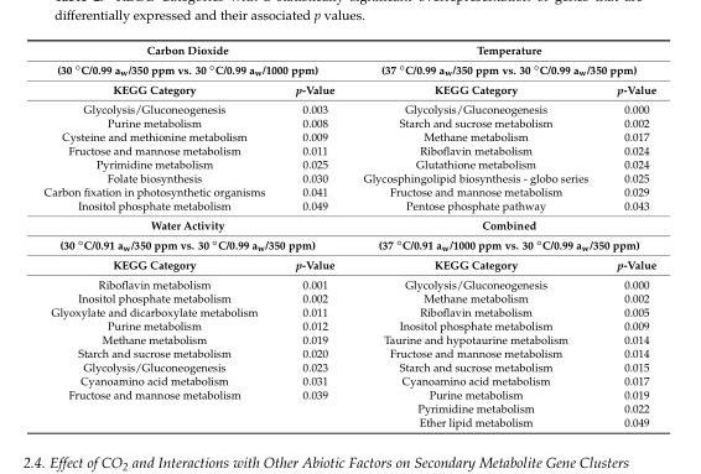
<table><tbody><tr><td colspan="2">Carbon Dioxide</td><td colspan="2">Temperature</td></tr><tr><td colspan="2">(30 ◦C/0.99 aw/350 ppm vs. 30 ◦C/0.99 aw/1000 ppm)</td><td colspan="2">(37 ◦C/0.99 aw/350 ppm vs. 30 ◦C/0.99 aw/350 ppm)</td></tr><tr><td>KEGG Category</td><td>p-Value</td><td>KEGG Category</td><td>p-Value</td></tr><tr><td>Glycolysis/Gluconeogenesis</td><td>0.003</td><td>Glycolysis/Gluconeogenesis</td><td>0.000</td></tr><tr><td>Purine metabolism</td><td>0.008</td><td>Starch and sucrose metabolism</td><td>0.002</td></tr><tr><td>Cysteine and methionine metabolism</td><td>0.009</td><td>Methane metabolism</td><td>0.017</td></tr><tr><td>Fructose and mannose metabolism</td><td>0.011</td><td>Riboflavin metabolism</td><td>0.024</td></tr><tr><td>Pyrimidine metabolism</td><td>0.025</td><td>Glutathione metabolism</td><td>0.024</td></tr><tr><td>Folate biosynthesis</td><td>0.030</td><td>Glycosphingolipid biosynthesis - globo series</td><td>0.025</td></tr><tr><td>Carbon fixation in photosynthetic organisms</td><td>0.041</td><td>Fructose and mannose metabolism</td><td>0.029</td></tr><tr><td>Inositol phosphate metabolism</td><td>0.049</td><td>Pentose phosphate pathway</td><td>0.043</td></tr><tr><td colspan="2">Water Activity</td><td colspan="2">Combined</td></tr><tr><td colspan="2">(30 ◦C/0.91 aw/350 ppm vs. 30 ◦C/0.99 aw/350 ppm)</td><td colspan="2">(37 ◦C/0.91 aw/1000 ppm vs. 30 ◦C/0.99 aw/350 ppm)</td></tr><tr><td>KEGG Category</td><td>p-Value</td><td>KEGG Category</td><td>p-Value</td></tr><tr><td>Riboflavin metabolism</td><td>0.001</td><td>Glycolysis/Gluconeogenesis</td><td>0.000</td></tr><tr><td>Inositol phosphate metabolism</td><td>0.002</td><td>Methane metabolism</td><td>0.002</td></tr><tr><td>Glyoxylate and dicarboxylate metabolism</td><td>0.011</td><td>Riboflavin metabolism</td><td>0.005</td></tr><tr><td>Purine metabolism</td><td>0.012</td><td>Inositol phosphate metabolism</td><td>0.009</td></tr><tr><td>Methane metabolism</td><td>0.019</td><td>Taurine and hypotaurine metabolism</td><td>0.014</td></tr><tr><td>Starch and sucrose metabolism</td><td>0.020</td><td>Fructose and mannose metabolism</td><td>0.014</td></tr><tr><td>Glycolysis/Gluconeogenesis</td><td>0.023</td><td>Starch and sucrose metabolism</td><td>0.015</td></tr><tr><td>Cyanoamino acid metabolism</td><td>0.031</td><td>Cyanoamino acid metabolism</td><td>0.017</td></tr><tr><td rowspan="3">Fructose and mannose metabolism</td><td>0.039</td><td>Purine metabolism</td><td>0.019</td></tr><tr><td></td><td>Pyrimidine metabolism</td><td>0.022</td></tr><tr><td></td><td>Ether lipid metabolism</td><td>0.049</td></tr></tbody></table>